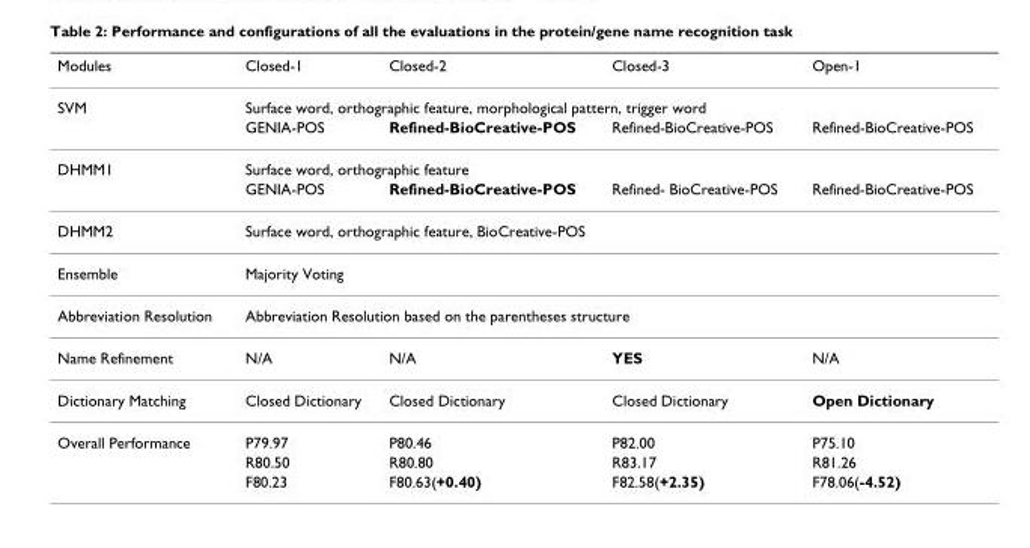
<table><thead><tr><td>Modules</td><td>Closed-1</td><td>Closed-2</td><td>Closed-3</td><td>Open-1</td></tr></thead><tbody><tr><td rowspan="2">SVM</td><td colspan="4">Surface word, orthographic feature, morphological pattern, trigger word</td></tr><tr><td>GENIA-POS</td><td>Refined-BioCreative-POS</td><td>Refined-BioCreative-POS</td><td>Refined-BioCreative-POS</td></tr><tr><td rowspan="2">DHMM1</td><td colspan="4">Surface word, orthographic feature</td></tr><tr><td>GENIA-POS</td><td>Refined-BioCreative-POS</td><td>Refined- BioCreative-POS</td><td>Refined-BioCreative-POS</td></tr><tr><td>DHMM2</td><td colspan="4">Surface word, orthographic feature, BioCreative-POS</td></tr><tr><td>Ensemble</td><td colspan="4">Majority Voting</td></tr><tr><td>Abbreviation Resolution</td><td colspan="4">Abbreviation Resolution based on the parentheses structure</td></tr><tr><td>Name Refinement</td><td>N/A</td><td>N/A</td><td>YES</td><td>N/A</td></tr><tr><td>Dictionary Matching</td><td>Closed Dictionary</td><td>Closed Dictionary</td><td>Closed Dictionary</td><td>Open Dictionary</td></tr><tr><td rowspan="3">Overall Performance</td><td>P79.97</td><td>P80.46</td><td>P82.00</td><td>P75.10</td></tr><tr><td>R80.50</td><td>R80.80</td><td>R83.17</td><td>R81.26</td></tr><tr><td>F80.23</td><td>F80.63(+0.40)</td><td>F82.58(+2.35)</td><td>F78.06(-4.52)</td></tr></tbody></table>